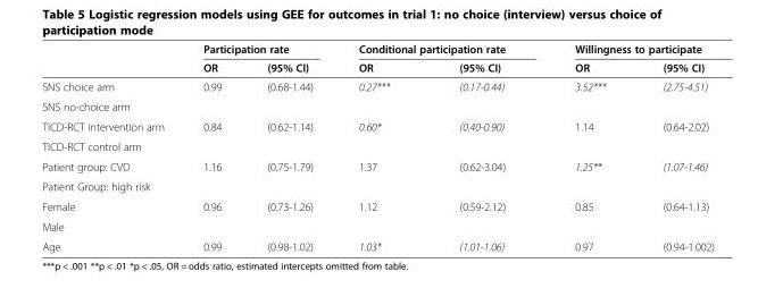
<table><thead><tr><td rowspan="2"></td><td colspan="2">Participation rate</td><td colspan="2">Conditional participation rate</td><td colspan="2">Willingness to participate</td></tr><tr><td>OR</td><td>(95% CI)</td><td>OR</td><td>(95% CI)</td><td>OR</td><td>(95% CI)</td></tr></thead><tbody><tr><td>SNS choice arm</td><td>0.99</td><td>(0.68-1.44)</td><td>0.27***</td><td>(0.17-0.44)</td><td>3.52***</td><td>(2.75-4.51)</td></tr><tr><td colspan="7">SNS no-choice arm</td></tr><tr><td>TICD-RCT intervention arm</td><td>0.84</td><td>(0.62-1.14)</td><td>0.60*</td><td>(0.40-0.90)</td><td>1.14</td><td>(0.64-2.02)</td></tr><tr><td colspan="7">TICD-RCT control arm</td></tr><tr><td>Patient group: CVD</td><td>1.16</td><td>(0.75-1.79)</td><td>1.37</td><td>(0.62-3.04)</td><td>1.25**</td><td>(1.07-1.46)</td></tr><tr><td colspan="7">Patient Group: high risk</td></tr><tr><td>Female</td><td>0.96</td><td>(0.73-1.26)</td><td>1.12</td><td>(0.59-2.12)</td><td>0.85</td><td>(0.64-1.13)</td></tr><tr><td colspan="7">Male</td></tr><tr><td>Age</td><td>0.99</td><td>(0.98-1.02)</td><td>1.03*</td><td>(1.01-1.06)</td><td>0.97</td><td>(0.94-1.002)</td></tr></tbody></table>